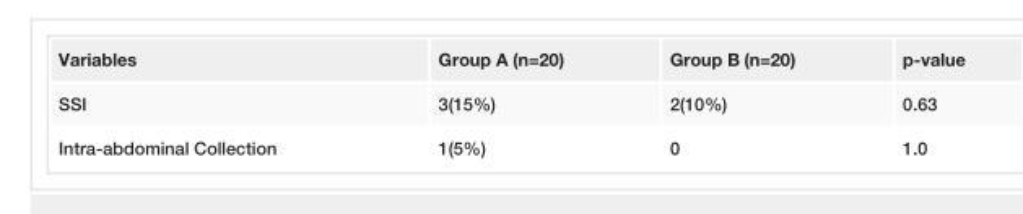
<table><tbody><tr><td>Variables</td><td>Group A (n=20)</td><td>Group B (n=20)</td><td>p-value</td></tr><tr><td>SSI</td><td>3(15%)</td><td>2(10%)</td><td>0.63</td></tr><tr><td>Intra-abdominal Collection</td><td>1(5%)</td><td>0</td><td>1.0</td></tr></tbody></table>